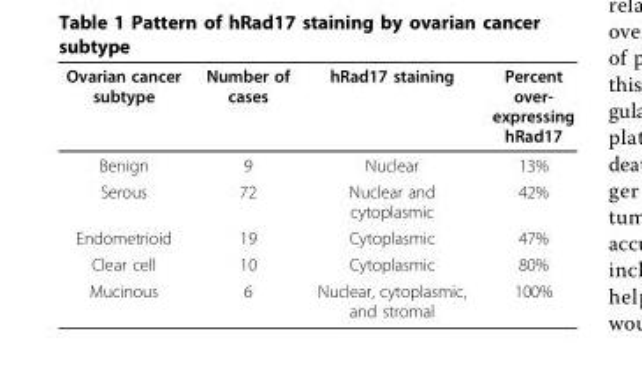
<table><thead><tr><td>Ovarian cancer subtype</td><td>Number of cases</td><td>hRad17 staining</td><td>Percent over- expressing hRad17</td></tr></thead><tbody><tr><td>Benign</td><td>9</td><td>Nuclear</td><td>13%</td></tr><tr><td>Serous</td><td>72</td><td>Nuclear and cytoplasmic</td><td>42%</td></tr><tr><td>Endometrioid</td><td>19</td><td>Cytoplasmic</td><td>47%</td></tr><tr><td>Clear cell</td><td>10</td><td>Cytoplasmic</td><td>80%</td></tr><tr><td>Mucinous</td><td>6</td><td>Nuclear, cytoplasmic, and stromal</td><td>100%</td></tr></tbody></table>